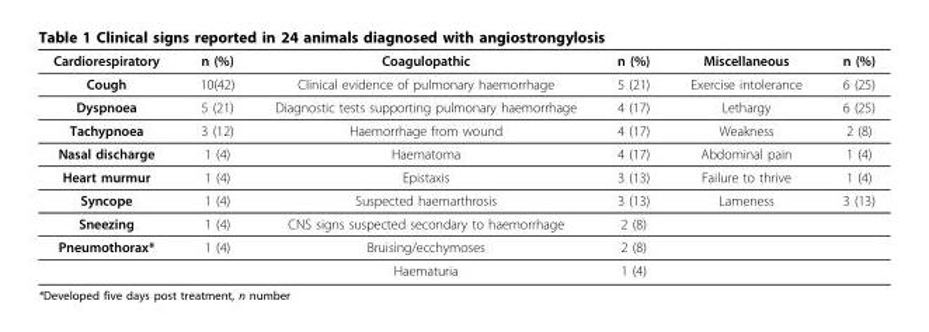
<table><thead><tr><td>Cardiorespiratory</td><td>n (%)</td><td>Coagulopathic</td><td>n (%)</td><td>Miscellaneous</td><td>n (%)</td></tr></thead><tbody><tr><td>Cough</td><td>10(42)</td><td>Clinical evidence of pulmonary haemorrhage</td><td>5 (21)</td><td>Exercise intolerance</td><td>6 (25)</td></tr><tr><td>Dyspnoea</td><td>5 (21)</td><td>Diagnostic tests supporting pulmonary haemorrhage</td><td>4 (17)</td><td>Lethargy</td><td>6 (25)</td></tr><tr><td>Tachypnoea</td><td>3 (12)</td><td>Haemorrhage from wound</td><td>4 (17)</td><td>Weakness</td><td>2 (8)</td></tr><tr><td>Nasal discharge</td><td>1 (4)</td><td>Haematoma</td><td>4 (17)</td><td>Abdominal pain</td><td>1 (4)</td></tr><tr><td>Heart murmur</td><td>1 (4)</td><td>Epistaxis</td><td>3 (13)</td><td>Failure to thrive</td><td>1 (4)</td></tr><tr><td>Syncope</td><td>1 (4)</td><td>Suspected haemarthrosis</td><td>3 (13)</td><td>Lameness</td><td>3 (13)</td></tr><tr><td>Sneezing</td><td>1 (4)</td><td>CNS signs suspected secondary to haemorrhage</td><td>2 (8)</td><td></td><td></td></tr><tr><td rowspan="2">Pneumothorax*</td><td>1 (4)</td><td>Bruising/ecchymoses</td><td>2 (8)</td><td></td><td></td></tr><tr><td></td><td>Haematuria</td><td>1 (4)</td><td></td><td></td></tr></tbody></table>